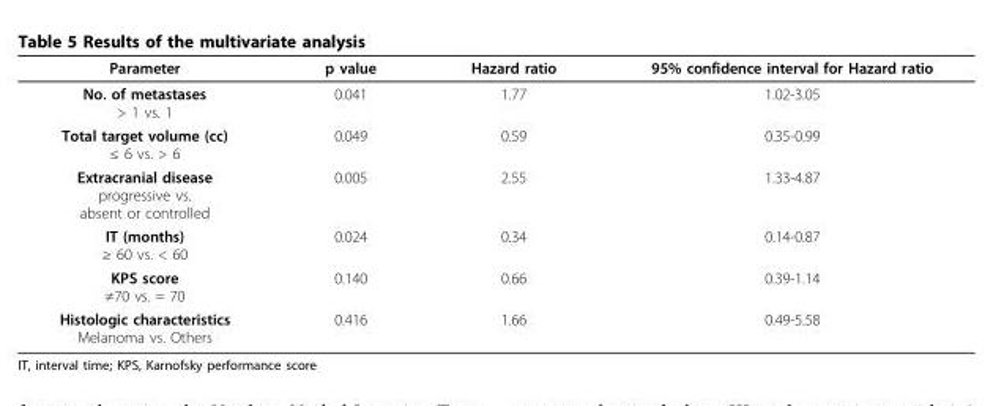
<table><thead><tr><td>Parameter</td><td>p value</td><td>Hazard ratio</td><td>95% confidence interval for Hazard ratio</td></tr></thead><tbody><tr><td>No. of metastases &gt; 1 vs. 1</td><td>0.041</td><td>1.77</td><td>1.02-3.05</td></tr><tr><td>Total target volume (cc) ≤ 6 vs. &gt; 6</td><td>0.049</td><td>0.59</td><td>0.35-0.99</td></tr><tr><td>Extracranial disease progressive vs. absent or controlled</td><td>0.005</td><td>2.55</td><td>1.33-4.87</td></tr><tr><td>IT (months) ≥ 60 vs. &lt; 60</td><td>0.024</td><td>0.34</td><td>0.14-0.87</td></tr><tr><td>KPS score ≠70 vs. = 70</td><td>0.140</td><td>0.66</td><td>0.39-1.14</td></tr><tr><td>Histologic characteristics Melanoma vs. Others</td><td>0.416</td><td>1.66</td><td>0.49-5.58</td></tr></tbody></table>